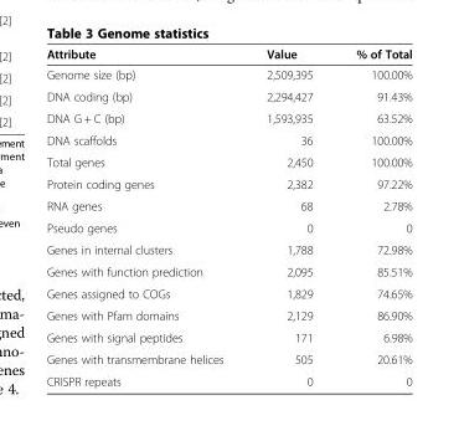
<table><thead><tr><td>Attribute</td><td>Value</td><td>% of Total</td></tr></thead><tbody><tr><td>Genome size (bp)</td><td>2,509,395</td><td>100.00%</td></tr><tr><td>DNA coding (bp)</td><td>2,294,427</td><td>91.43%</td></tr><tr><td>DNA G + C (bp)</td><td>1,593,935</td><td>63.52%</td></tr><tr><td>DNA scaffolds</td><td>36</td><td>100.00%</td></tr><tr><td>Total genes</td><td>2,450</td><td>100.00%</td></tr><tr><td>Protein coding genes</td><td>2,382</td><td>97.22%</td></tr><tr><td>RNA genes</td><td>68</td><td>2.78%</td></tr><tr><td>Pseudo genes</td><td>0</td><td>0</td></tr><tr><td>Genes in internal clusters</td><td>1,788</td><td>72.98%</td></tr><tr><td>Genes with function prediction</td><td>2,095</td><td>85.51%</td></tr><tr><td>Genes assigned to COGs</td><td>1,829</td><td>74.65%</td></tr><tr><td>Genes with Pfam domains</td><td>2,129</td><td>86.90%</td></tr><tr><td>Genes with signal peptides</td><td>171</td><td>6.98%</td></tr><tr><td>Genes with transmembrane helices</td><td>505</td><td>20.61%</td></tr><tr><td>CRISPR repeats</td><td>0</td><td>0</td></tr></tbody></table>